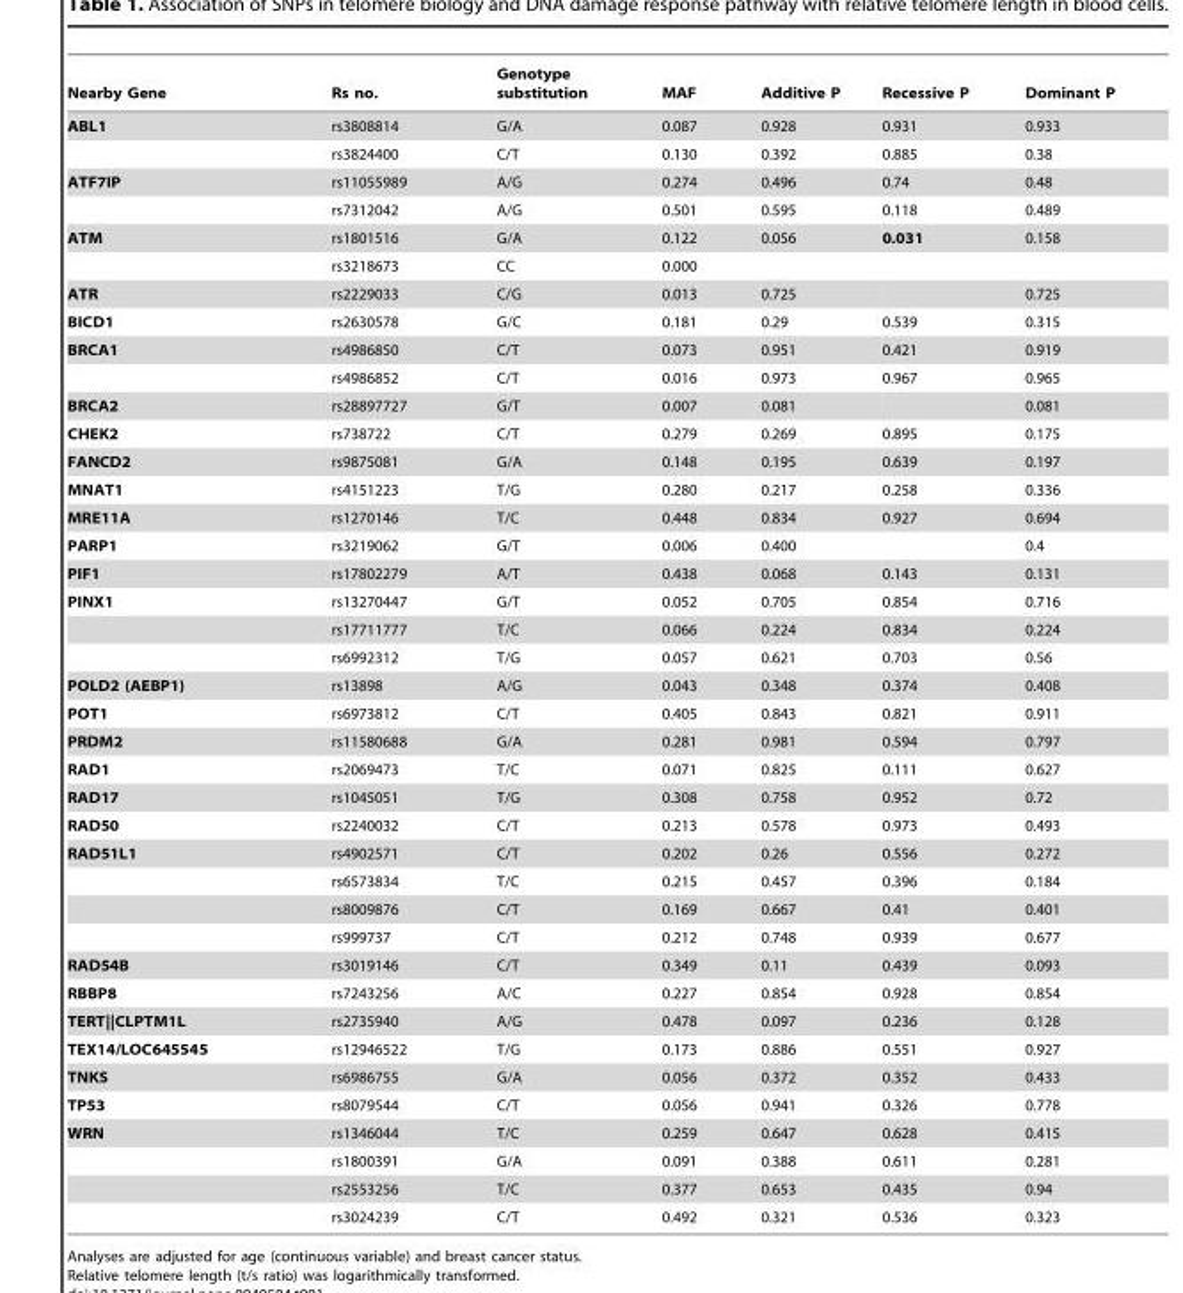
<table><thead><tr><td>Nearby Gene</td><td>Rs no.</td><td>Genotype substitution</td><td>MAF</td><td>Additive P</td><td>Recessive P</td><td>Dominant P</td></tr></thead><tbody><tr><td rowspan="2">ABL1</td><td>rs3808814</td><td>G/A</td><td>0.087</td><td>0.928</td><td>0.931</td><td>0.933</td></tr><tr><td>rs3824400</td><td>C/T</td><td>0.130</td><td>0.392</td><td>0.885</td><td>0.38</td></tr><tr><td rowspan="2">ATF7IP</td><td>rs11055989</td><td>A/G</td><td>0.274</td><td>0.496</td><td>0.74</td><td>0.48</td></tr><tr><td>rs7312042</td><td>A/G</td><td>0.501</td><td>0.595</td><td>0.118</td><td>0.489</td></tr><tr><td rowspan="2">ATM</td><td>rs1801516</td><td>G/A</td><td>0.122</td><td>0.056</td><td>0.031</td><td>0.158</td></tr><tr><td>rs3218673</td><td>CC</td><td>0.000</td><td></td><td></td><td></td></tr><tr><td>ATR</td><td>rs2229033</td><td>C/G</td><td>0.013</td><td>0.725</td><td></td><td>0.725</td></tr><tr><td>BICD1</td><td>rs2630578</td><td>G/C</td><td>0.181</td><td>0.29</td><td>0.539</td><td>0.315</td></tr><tr><td rowspan="2">BRCA1</td><td>rs4986850</td><td>C/T</td><td>0.073</td><td>0.951</td><td>0.421</td><td>0.919</td></tr><tr><td>rs4986852</td><td>C/T</td><td>0.016</td><td>0.973</td><td>0.967</td><td>0.965</td></tr><tr><td>BRCA2</td><td>rs28897727</td><td>G/T</td><td>0.007</td><td>0.081</td><td></td><td>0.081</td></tr><tr><td>CHEK2</td><td>rs738722</td><td>C/T</td><td>0.279</td><td>0.269</td><td>0.895</td><td>0.175</td></tr><tr><td>FANCD2</td><td>rs9875081</td><td>G/A</td><td>0.148</td><td>0.195</td><td>0.639</td><td>0.197</td></tr><tr><td>MNAT1</td><td>rs4151223</td><td>T/G</td><td>0.280</td><td>0.217</td><td>0.258</td><td>0.336</td></tr><tr><td>MRE11A</td><td>rs1270146</td><td>T/C</td><td>0.448</td><td>0.834</td><td>0.927</td><td>0.694</td></tr><tr><td>PARP1</td><td>rs3219062</td><td>G/T</td><td>0.006</td><td>0.400</td><td></td><td>0.4</td></tr><tr><td>PIF1</td><td>rs17802279</td><td>A/T</td><td>0.438</td><td>0.068</td><td>0.143</td><td>0.131</td></tr><tr><td rowspan="3">PINX1</td><td>rs13270447</td><td>G/T</td><td>0.052</td><td>0.705</td><td>0.854</td><td>0.716</td></tr><tr><td>rs17711777</td><td>T/C</td><td>0.066</td><td>0.224</td><td>0.834</td><td>0.224</td></tr><tr><td>rs6992312</td><td>T/G</td><td>0.057</td><td>0.621</td><td>0.703</td><td>0.56</td></tr><tr><td>POLD2 (AEBP1)</td><td>rs13898</td><td>A/G</td><td>0.043</td><td>0.348</td><td>0.374</td><td>0.408</td></tr><tr><td>POT1</td><td>rs6973812</td><td>C/T</td><td>0.405</td><td>0.843</td><td>0.821</td><td>0.911</td></tr><tr><td>PRDM2</td><td>rs11580688</td><td>G/A</td><td>0.281</td><td>0.981</td><td>0.594</td><td>0.797</td></tr><tr><td>RAD1</td><td>rs2069473</td><td>T/C</td><td>0.071</td><td>0.825</td><td>0.111</td><td>0.627</td></tr><tr><td>RAD17</td><td>rs1045051</td><td>T/G</td><td>0.308</td><td>0.758</td><td>0.952</td><td>0.72</td></tr><tr><td>RAD50</td><td>rs2240032</td><td>C/T</td><td>0.213</td><td>0.578</td><td>0.973</td><td>0.493</td></tr><tr><td rowspan="4">RAD51L1</td><td>rs4902571</td><td>C/T</td><td>0.202</td><td>0.26</td><td>0.556</td><td>0.272</td></tr><tr><td>rs6573834</td><td>T/C</td><td>0.215</td><td>0.457</td><td>0.396</td><td>0.184</td></tr><tr><td>rs8009876</td><td>C/T</td><td>0.169</td><td>0.667</td><td>0.41</td><td>0.401</td></tr><tr><td>rs999737</td><td>C/T</td><td>0.212</td><td>0.748</td><td>0.939</td><td>0.677</td></tr><tr><td>RAD54B</td><td>rs3019146</td><td>C/T</td><td>0.349</td><td>0.11</td><td>0.439</td><td>0.093</td></tr><tr><td>RBBP8</td><td>rs7243256</td><td>A/C</td><td>0.227</td><td>0.854</td><td>0.928</td><td>0.854</td></tr><tr><td>TERT||CLPTM1L</td><td>rs2735940</td><td>A/G</td><td>0.478</td><td>0.097</td><td>0.236</td><td>0.128</td></tr><tr><td>TEX14/LOC645545</td><td>rs12946522</td><td>T/G</td><td>0.173</td><td>0.886</td><td>0.551</td><td>0.927</td></tr><tr><td>TNKS</td><td>rs6986755</td><td>G/A</td><td>0.056</td><td>0.372</td><td>0.352</td><td>0.433</td></tr><tr><td>TP53</td><td>rs8079544</td><td>C/T</td><td>0.056</td><td>0.941</td><td>0.326</td><td>0.778</td></tr><tr><td rowspan="4">WRN</td><td>rs1346044</td><td>T/C</td><td>0.259</td><td>0.647</td><td>0.628</td><td>0.415</td></tr><tr><td>rs1800391</td><td>G/A</td><td>0.091</td><td>0.388</td><td>0.611</td><td>0.281</td></tr><tr><td>rs2553256</td><td>T/C</td><td>0.377</td><td>0.653</td><td>0.435</td><td>0.94</td></tr><tr><td>rs3024239</td><td>C/T</td><td>0.492</td><td>0.321</td><td>0.536</td><td>0.323</td></tr></tbody></table>